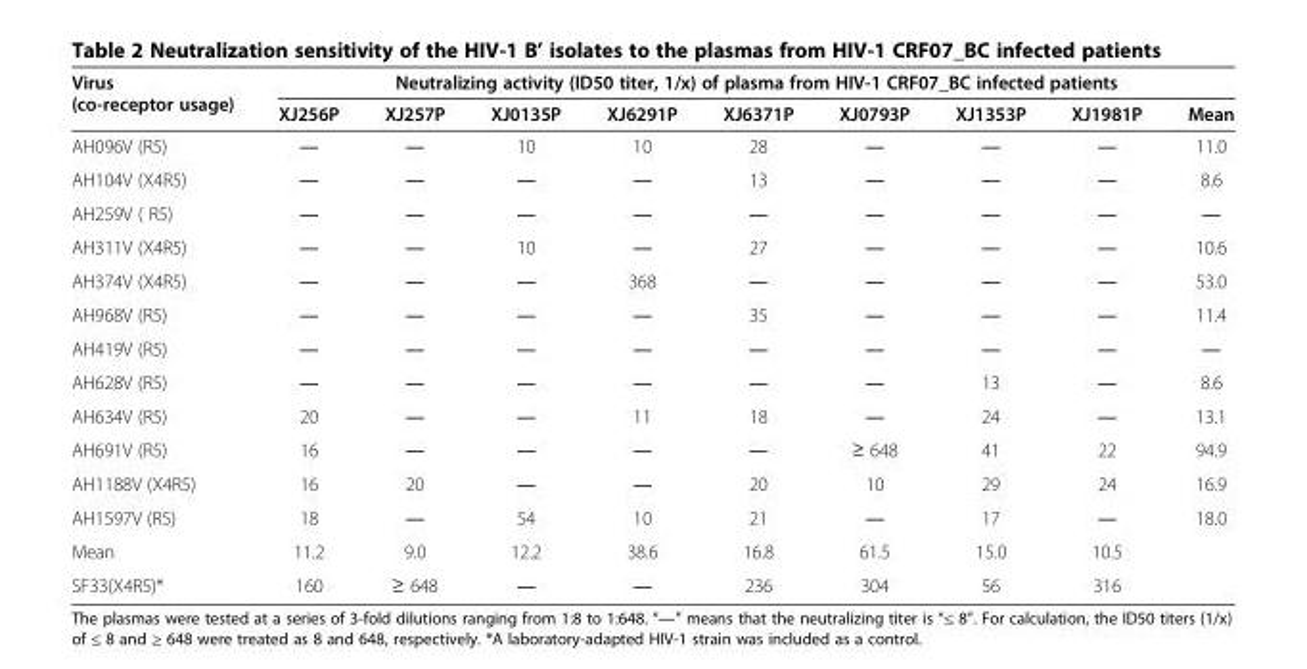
<table><thead><tr><td rowspan="2">Virus (co-receptor usage)</td><td colspan="9">Neutralizing activity (ID50 titer, 1/x) of plasma from HIV-1 CRF07_BC infected patients</td></tr><tr><td>XJ256P</td><td>XJ257P</td><td>XJ0135P</td><td>XJ6291P</td><td>XJ6371P</td><td>XJ0793P</td><td>XJ1353P</td><td>XJ1981P</td><td>Mean</td></tr></thead><tbody><tr><td>AH096V (R5)</td><td>―</td><td>―</td><td>10</td><td>10</td><td>28</td><td>―</td><td>―</td><td>―</td><td>11.0</td></tr><tr><td>AH104V (X4R5)</td><td>―</td><td>―</td><td>―</td><td>―</td><td>13</td><td>―</td><td>―</td><td>―</td><td>8.6</td></tr><tr><td>AH259V ( R5)</td><td>―</td><td>―</td><td>―</td><td>―</td><td>―</td><td>―</td><td>―</td><td>―</td><td>―</td></tr><tr><td>AH311V (X4R5)</td><td>―</td><td>―</td><td>10</td><td>―</td><td>27</td><td>―</td><td>―</td><td>―</td><td>10.6</td></tr><tr><td>AH374V (X4R5)</td><td>―</td><td>―</td><td>―</td><td>368</td><td>―</td><td>―</td><td>―</td><td>―</td><td>53.0</td></tr><tr><td>AH968V (R5)</td><td>―</td><td>―</td><td>―</td><td>―</td><td>35</td><td>―</td><td>―</td><td>―</td><td>11.4</td></tr><tr><td>AH419V (R5)</td><td>―</td><td>―</td><td>―</td><td>―</td><td>―</td><td>―</td><td>―</td><td>―</td><td>―</td></tr><tr><td>AH628V (R5)</td><td>―</td><td>―</td><td>―</td><td>―</td><td>―</td><td>―</td><td>13</td><td>―</td><td>8.6</td></tr><tr><td>AH634V (R5)</td><td>20</td><td>―</td><td>―</td><td>11</td><td>18</td><td>―</td><td>24</td><td>―</td><td>13.1</td></tr><tr><td>AH691V (R5)</td><td>16</td><td>―</td><td>―</td><td>―</td><td>―</td><td>≥ 648</td><td>41</td><td>22</td><td>94.9</td></tr><tr><td>AH1188V (X4R5)</td><td>16</td><td>20</td><td>―</td><td>―</td><td>20</td><td>10</td><td>29</td><td>24</td><td>16.9</td></tr><tr><td>AH1597V (R5)</td><td>18</td><td>―</td><td>54</td><td>10</td><td>21</td><td>―</td><td>17</td><td>―</td><td>18.0</td></tr><tr><td>Mean</td><td>11.2</td><td>9.0</td><td>12.2</td><td>38.6</td><td>16.8</td><td>61.5</td><td>15.0</td><td>10.5</td><td></td></tr><tr><td>SF33(X4R5)*</td><td>160</td><td>≥ 648</td><td>―</td><td>―</td><td>236</td><td>304</td><td>56</td><td>316</td><td></td></tr></tbody></table>